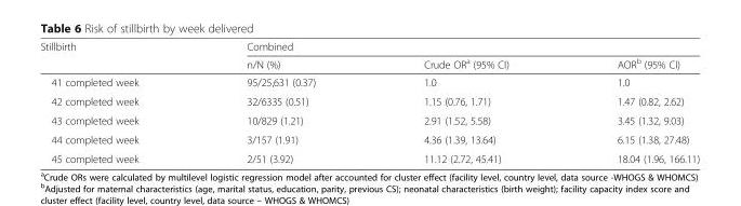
<table><thead><tr><td rowspan="2">Stillbirth</td><td colspan="3">Combined</td></tr><tr><td>n/N (%)</td><td>Crude OR<sup>a</sup> (95% CI)</td><td>AOR<sup>b</sup> (95% CI)</td></tr></thead><tbody><tr><td>41 completed week</td><td>95/25,631 (0.37)</td><td>1.0</td><td>1.0</td></tr><tr><td>42 completed week</td><td>32/6335 (0.51)</td><td>1.15 (0.76, 1.71)</td><td>1.47 (0.82, 2.62)</td></tr><tr><td>43 completed week</td><td>10/829 (1.21)</td><td>2.91 (1.52, 5.58)</td><td>3.45 (1.32, 9.03)</td></tr><tr><td>44 completed week</td><td>3/157 (1.91)</td><td>4.36 (1.39, 13.64)</td><td>6.15 (1.38, 27.48)</td></tr><tr><td>45 completed week</td><td>2/51 (3.92)</td><td>11.12 (2.72, 45.41)</td><td>18.04 (1.96, 166.11)</td></tr></tbody></table>